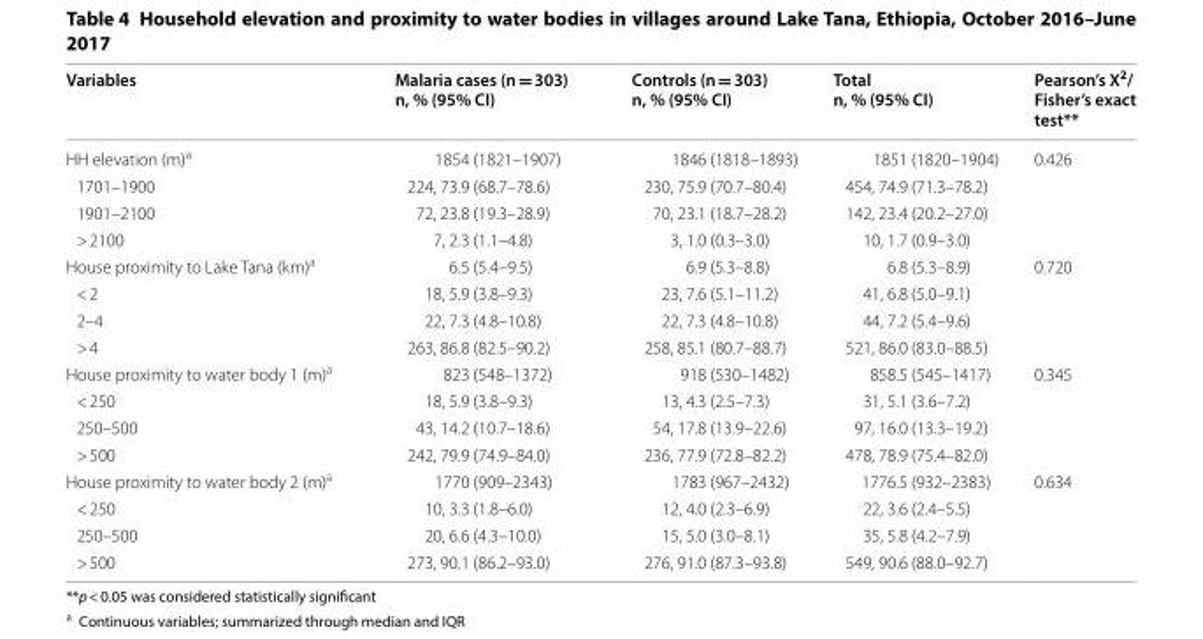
<table><thead><tr><td>Variables</td><td>Malaria cases (n = 303) n, % (95% CI)</td><td>Controls (n = 303) n, % (95% CI)</td><td>Total n, % (95% CI)</td><td>Pearson’s X<sup>2</sup>/ Fisher’s exact test**</td></tr></thead><tbody><tr><td>HH elevation (m)<sup>a</sup></td><td>1854 (1821–1907)</td><td>1846 (1818–1893)</td><td>1851 (1820–1904)</td><td rowspan="4">0.426</td></tr><tr><td>1701–1900</td><td>224, 73.9 (68.7–78.6)</td><td>230, 75.9 (70.7–80.4)</td><td>454, 74.9 (71.3–78.2)</td></tr><tr><td>1901–2100</td><td>72, 23.8 (19.3–28.9)</td><td>70, 23.1 (18.7–28.2)</td><td>142, 23.4 (20.2–27.0)</td></tr><tr><td>&gt; 2100</td><td>7, 2.3 (1.1–4.8)</td><td>3, 1.0 (0.3–3.0)</td><td>10, 1.7 (0.9–3.0)</td></tr><tr><td>House proximity to Lake Tana (km)<sup>a</sup></td><td>6.5 (5.4–9.5)</td><td>6.9 (5.3–8.8)</td><td>6.8 (5.3–8.9)</td><td rowspan="4">0.720</td></tr><tr><td>&lt; 2</td><td>18, 5.9 (3.8–9.3)</td><td>23, 7.6 (5.1–11.2)</td><td>41, 6.8 (5.0–9.1)</td></tr><tr><td>2–4</td><td>22, 7.3 (4.8–10.8)</td><td>22, 7.3 (4.8–10.8)</td><td>44, 7.2 (5.4–9.6)</td></tr><tr><td>&gt; 4</td><td>263, 86.8 (82.5–90.2)</td><td>258, 85.1 (80.7–88.7)</td><td>521, 86.0 (83.0–88.5)</td></tr><tr><td>House proximity to water body 1 (m)<sup>a</sup></td><td>823 (548–1372)</td><td>918 (530–1482)</td><td>858.5 (545–1417)</td><td rowspan="4">0.345</td></tr><tr><td>&lt; 250</td><td>18, 5.9 (3.8–9.3)</td><td>13, 4.3 (2.5–7.3)</td><td>31, 5.1 (3.6–7.2)</td></tr><tr><td>250–500</td><td>43, 14.2 (10.7–18.6)</td><td>54, 17.8 (13.9–22.6)</td><td>97, 16.0 (13.3–19.2)</td></tr><tr><td>&gt; 500</td><td>242, 79.9 (74.9–84.0)</td><td>236, 77.9 (72.8–82.2)</td><td>478, 78.9 (75.4–82.0)</td></tr><tr><td>House proximity to water body 2 (m)<sup>a</sup></td><td>1770 (909–2343)</td><td>1783 (967–2432)</td><td>1776.5 (932–2383)</td><td rowspan="4">0.634</td></tr><tr><td>&lt; 250</td><td>10, 3.3 (1.8–6.0)</td><td>12, 4.0 (2.3–6.9)</td><td>22, 3.6 (2.4–5.5)</td></tr><tr><td>250–500</td><td>20, 6.6 (4.3–10.0)</td><td>15, 5.0 (3.0–8.1)</td><td>35, 5.8 (4.2–7.9)</td></tr><tr><td>&gt; 500</td><td>273, 90.1 (86.2–93.0)</td><td>276, 91.0 (87.3–93.8)</td><td>549, 90.6 (88.0–92.7)</td></tr></tbody></table>